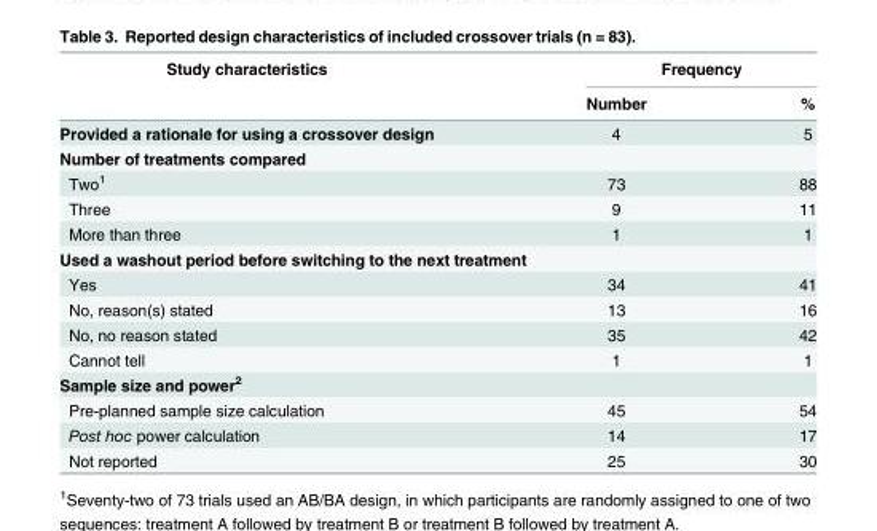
<table><thead><tr><td rowspan="2">Study characteristics</td><td colspan="2">Frequency</td></tr><tr><td>Number</td><td>%</td></tr></thead><tbody><tr><td>Provided a rationale for using a crossover design</td><td>4</td><td>5</td></tr><tr><td colspan="3">Number of treatments compared</td></tr><tr><td>Two<sup>1</sup></td><td>73</td><td>88</td></tr><tr><td>Three</td><td>9</td><td>11</td></tr><tr><td>More than three</td><td>1</td><td>1</td></tr><tr><td colspan="3">Used a washout period before switching to the next treatment</td></tr><tr><td>Yes</td><td>34</td><td>41</td></tr><tr><td>No, reason(s) stated</td><td>13</td><td>16</td></tr><tr><td>No, no reason stated</td><td>35</td><td>42</td></tr><tr><td>Cannot tell</td><td>1</td><td>1</td></tr><tr><td colspan="3">Sample size and power<sup>2</sup></td></tr><tr><td>Pre-planned sample size calculation</td><td>45</td><td>54</td></tr><tr><td>Post hoc power calculation</td><td>14</td><td>17</td></tr><tr><td>Not reported</td><td>25</td><td>30</td></tr></tbody></table>